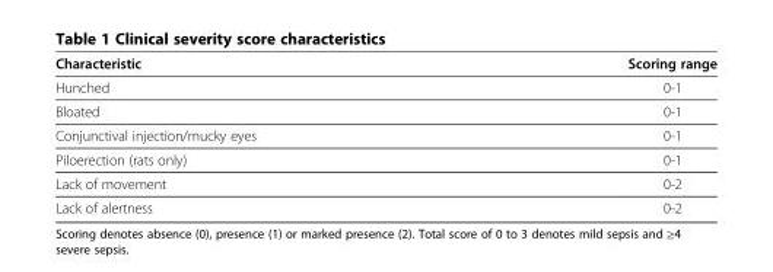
<table><thead><tr><td>Characteristic</td><td>Scoring range</td></tr></thead><tbody><tr><td>Hunched</td><td>0-1</td></tr><tr><td>Bloated</td><td>0-1</td></tr><tr><td>Conjunctival injection/mucky eyes</td><td>0-1</td></tr><tr><td>Piloerection (rats only)</td><td>0-1</td></tr><tr><td>Lack of movement</td><td>0-2</td></tr><tr><td>Lack of alertness</td><td>0-2</td></tr></tbody></table>